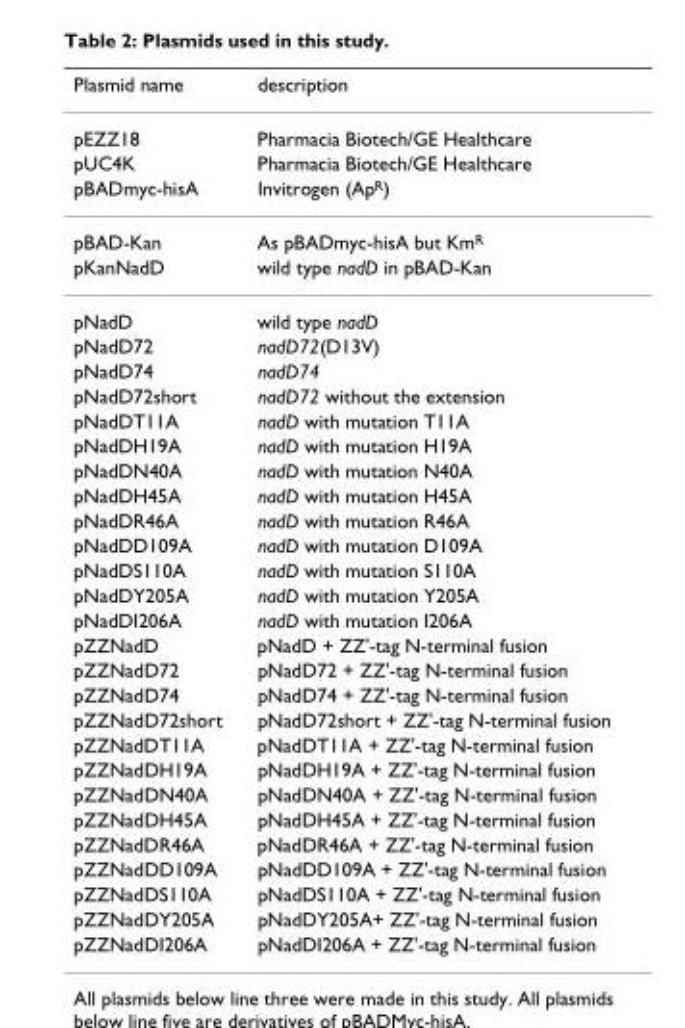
<table><thead><tr><td>Plasmid name</td><td>description</td></tr></thead><tbody><tr><td>pEZZ18</td><td>Pharmacia Biotech/GE Healthcare</td></tr><tr><td>pUC4K</td><td>Pharmacia Biotech/GE Healthcare</td></tr><tr><td>pBADmyc-hisA</td><td>Invitrogen (Ap<sup>R</sup>)</td></tr><tr><td>pBAD-Kan</td><td>As pBADmyc-hisA but Km<sup>R</sup></td></tr><tr><td>pKanNadD</td><td>wild type nadD in pBAD-Kan</td></tr><tr><td>pNadD</td><td>wild type nadD</td></tr><tr><td>pNadD72</td><td>nadD72(D13V)</td></tr><tr><td>pNadD74</td><td>nadD74</td></tr><tr><td>pNadD72short</td><td>nadD72 without the extension</td></tr><tr><td>pNadDT11A</td><td>nadD with mutation T11A</td></tr><tr><td>pNadDH19A</td><td>nadD with mutation H19A</td></tr><tr><td>pNadDN40A</td><td>nadD with mutation N40A</td></tr><tr><td>pNadDH45A</td><td>nadD with mutation H45A</td></tr><tr><td>pNadDR46A</td><td>nadD with mutation R46A</td></tr><tr><td>pNadDD109A</td><td>nadD with mutation D109A</td></tr><tr><td>pNadDS110A</td><td>nadD with mutation S110A</td></tr><tr><td>pNadDY205A</td><td>nadD with mutation Y205A</td></tr><tr><td>pNadDI206A</td><td>nadD with mutation I206A</td></tr><tr><td>pZZNadD</td><td>pNadD + ZZ&#x27;-tag N-terminal fusion</td></tr><tr><td>pZZNadD72</td><td>pNadD72 + ZZ&#x27;-tag N-terminal fusion</td></tr><tr><td>pZZNadD74</td><td>pNadD74 + ZZ&#x27;-tag N-terminal fusion</td></tr><tr><td>pZZNadD72short</td><td>pNadD72short + ZZ&#x27;-tag N-terminal fusion</td></tr><tr><td>pZZNadDT11A</td><td>pNadDT11A + ZZ&#x27;-tag N-terminal fusion</td></tr><tr><td>pZZNadDH19A</td><td>pNadDH19A + ZZ&#x27;-tag N-terminal fusion</td></tr><tr><td>pZZNadDN40A</td><td>pNadDN40A + ZZ&#x27;-tag N-terminal fusion</td></tr><tr><td>pZZNadDH45A</td><td>pNadDH45A + ZZ&#x27;-tag N-terminal fusion</td></tr><tr><td>pZZNadDR46A</td><td>pNadDR46A + ZZ&#x27;-tag N-terminal fusion</td></tr><tr><td>pZZNadDD109A</td><td>pNadDD109A + ZZ&#x27;-tag N-terminal fusion</td></tr><tr><td>pZZNadDS110A</td><td>pNadDS110A + ZZ&#x27;-tag N-terminal fusion</td></tr><tr><td>pZZNadDY205A</td><td>pNadDY205A+ ZZ&#x27;-tag N-terminal fusion</td></tr><tr><td>pZZNadDI206A</td><td>pNadDI206A + ZZ&#x27;-tag N-terminal fusion</td></tr></tbody></table>